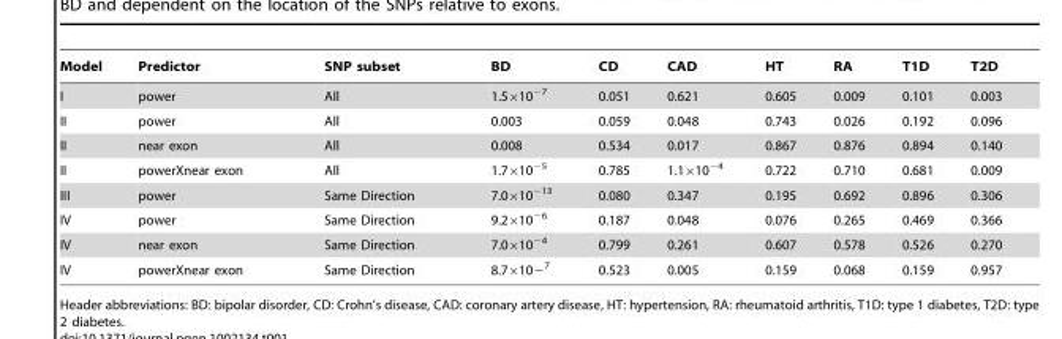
<table><thead><tr><td>Model</td><td>Predictor</td><td>SNP subset</td><td>BD</td><td>CD</td><td>CAD</td><td>HT</td><td>RA</td><td>T1D</td><td>T2D</td></tr></thead><tbody><tr><td>I</td><td>power</td><td>All</td><td>1.5×10<sup>−7</sup></td><td>0.051</td><td>0.621</td><td>0.605</td><td>0.009</td><td>0.101</td><td>0.003</td></tr><tr><td>II</td><td>power</td><td>All</td><td>0.003</td><td>0.059</td><td>0.048</td><td>0.743</td><td>0.026</td><td>0.192</td><td>0.096</td></tr><tr><td>II</td><td>near exon</td><td>All</td><td>0.008</td><td>0.534</td><td>0.017</td><td>0.867</td><td>0.876</td><td>0.894</td><td>0.140</td></tr><tr><td>II</td><td>powerXnear exon</td><td>All</td><td>1.7×10<sup>−5</sup></td><td>0.785</td><td>1.1×10<sup>−4</sup></td><td>0.722</td><td>0.710</td><td>0.681</td><td>0.009</td></tr><tr><td>III</td><td>power</td><td>Same Direction</td><td>7.0×10<sup>−13</sup></td><td>0.080</td><td>0.347</td><td>0.195</td><td>0.692</td><td>0.896</td><td>0.306</td></tr><tr><td>IV</td><td>power</td><td>Same Direction</td><td>9.2×10<sup>−6</sup></td><td>0.187</td><td>0.048</td><td>0.076</td><td>0.265</td><td>0.469</td><td>0.366</td></tr><tr><td>IV</td><td>near exon</td><td>Same Direction</td><td>7.0×10<sup>−4</sup></td><td>0.799</td><td>0.261</td><td>0.607</td><td>0.578</td><td>0.526</td><td>0.270</td></tr><tr><td>IV</td><td>powerXnear exon</td><td>Same Direction</td><td>8.7×10−<sup>7</sup></td><td>0.523</td><td>0.005</td><td>0.159</td><td>0.068</td><td>0.159</td><td>0.957</td></tr></tbody></table>